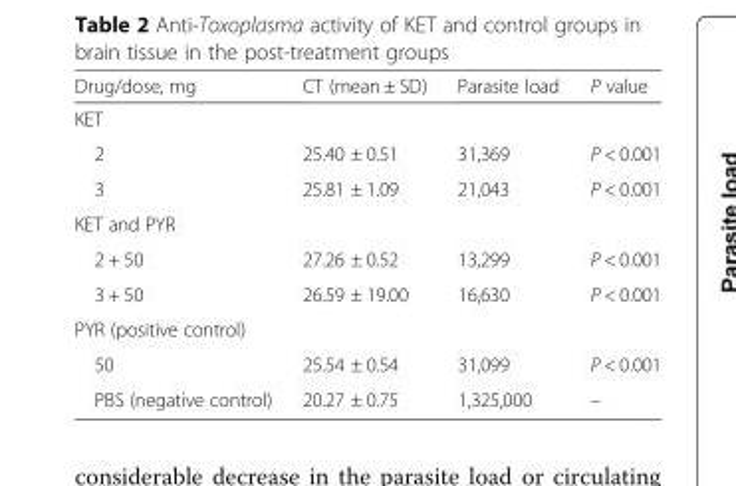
<table><thead><tr><td>Drug/dose, mg</td><td>CT (mean ± SD)</td><td>Parasite load</td><td>P value</td></tr></thead><tbody><tr><td colspan="4">KET</td></tr><tr><td>2</td><td>25.40 ± 0.51</td><td>31,369</td><td>P &lt; 0.001</td></tr><tr><td>3</td><td>25.81 ± 1.09</td><td>21,043</td><td>P &lt; 0.001</td></tr><tr><td colspan="4">KET and PYR</td></tr><tr><td>2 + 50</td><td>27.26 ± 0.52</td><td>13,299</td><td>P &lt; 0.001</td></tr><tr><td>3 + 50</td><td>26.59 ± 19.00</td><td>16,630</td><td>P &lt; 0.001</td></tr><tr><td colspan="4">PYR (positive control)</td></tr><tr><td>50</td><td>25.54 ± 0.54</td><td>31,099</td><td>P &lt; 0.001</td></tr><tr><td>PBS (negative control)</td><td>20.27 ± 0.75</td><td>1,325,000</td><td>–</td></tr></tbody></table>